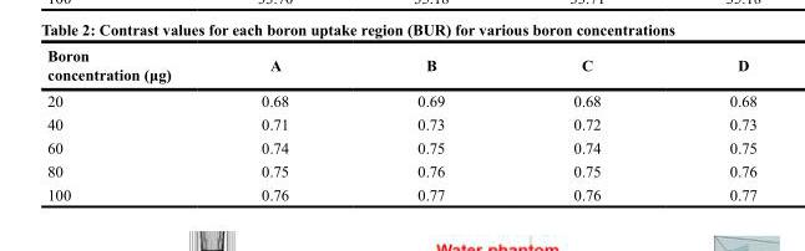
<table><thead><tr><td>Boron concentration (μg)</td><td>A</td><td>B</td><td>C</td><td>D</td></tr></thead><tbody><tr><td>20</td><td>0.68</td><td>0.69</td><td>0.68</td><td>0.68</td></tr><tr><td>40</td><td>0.71</td><td>0.73</td><td>0.72</td><td>0.73</td></tr><tr><td>60</td><td>0.74</td><td>0.75</td><td>0.74</td><td>0.75</td></tr><tr><td>80</td><td>0.75</td><td>0.76</td><td>0.75</td><td>0.76</td></tr><tr><td>100</td><td>0.76</td><td>0.77</td><td>0.76</td><td>0.77</td></tr></tbody></table>